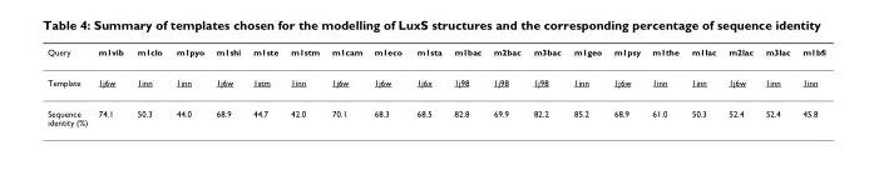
<table><thead><tr><td>Query</td><td>m1vib</td><td>m1clo</td><td>m1pyo</td><td>m1shi</td><td>m1ste</td><td>m1stm</td><td>m1cam</td><td>m1eco</td><td>m1sta</td><td>m1bac</td><td>m2bac</td><td>m3bac</td><td>m1geo</td><td>m1psy</td><td>m1the</td><td>m1lac</td><td>m2lac</td><td>m3lac</td><td>m1bfi</td></tr></thead><tbody><tr><td>Template</td><td>1j6w</td><td>1inn</td><td>1inn</td><td>1j6w</td><td>1stm</td><td>1inn</td><td>1j6w</td><td>1j6w</td><td>1j6x</td><td>1j98</td><td>1j98</td><td>1j98</td><td>1inn</td><td>1j6w</td><td>1inn</td><td>1inn</td><td>1j6w</td><td>1inn</td><td>1inn</td></tr><tr><td>Sequence identity (%)</td><td>74.1</td><td>50.3</td><td>44.0</td><td>68.9</td><td>44.7</td><td>42.0</td><td>70.1</td><td>68.3</td><td>68.5</td><td>82.8</td><td>69.9</td><td>82.2</td><td>85.2</td><td>68.9</td><td>61.0</td><td>50.3</td><td>52.4</td><td>52.4</td><td>45.8</td></tr></tbody></table>